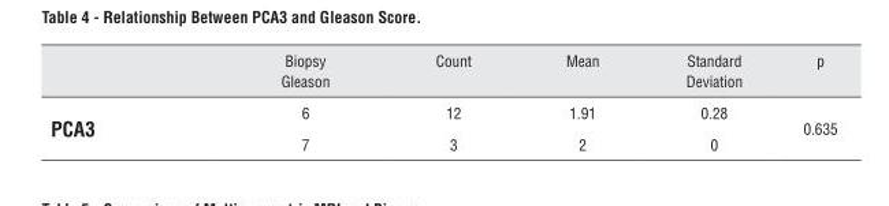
<table><thead><tr><td></td><td>Biopsy Gleason</td><td>Count</td><td>Mean</td><td>Standard Deviation</td><td>p</td></tr></thead><tbody><tr><td rowspan="2">pCA3</td><td>6</td><td>12</td><td>1.91</td><td>0.28</td><td rowspan="2">0.635</td></tr><tr><td>7</td><td>3</td><td>2</td><td>0</td></tr></tbody></table>